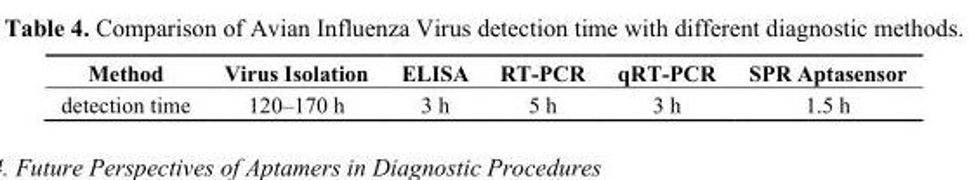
<table><thead><tr><td>Method</td><td>Virus Isolation</td><td>ELISA</td><td>RT-PCR</td><td>qRT-PCR</td><td>SPR Aptasensor</td></tr></thead><tbody><tr><td>detection time</td><td>120–170 h</td><td>3 h</td><td>5 h</td><td>3 h</td><td>1.5 h</td></tr></tbody></table>